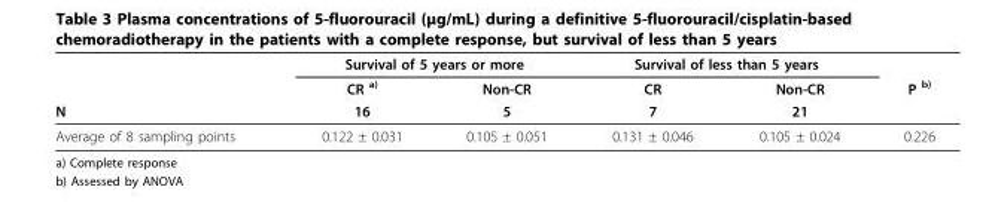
<table><thead><tr><td rowspan="3">N</td><td colspan="2">Survival of 5 years or more</td><td colspan="2">Survival of less than 5 years</td><td rowspan="3">P <sup>b)</sup></td></tr><tr><td rowspan="2">CR <sup>a)</sup> 16</td><td rowspan="2">Non-CR 5</td><td rowspan="2">CR 7</td><td rowspan="2">Non-CR 21</td></tr><tr></tr></thead><tbody><tr><td>Average of 8 sampling points</td><td>0.122 ± 0.031</td><td>0.105 ± 0.051</td><td>0.131 ± 0.046</td><td>0.105 ± 0.024</td><td>0.226</td></tr></tbody></table>